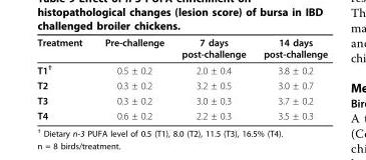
<table><thead><tr><td>Treatment</td><td>Pre-challenge</td><td>7 days post-challenge</td><td>14 days post-challenge</td></tr></thead><tbody><tr><td>T1<sup>†</sup></td><td>0.5 ± 0.2</td><td>2.0 ± 0.4</td><td>3.8 ± 0.2</td></tr><tr><td>T2</td><td>0.3 ± 0.2</td><td>3.2 ± 0.5</td><td>3.0 ± 0.7</td></tr><tr><td>T3</td><td>0.3 ± 0.2</td><td>3.0 ± 0.3</td><td>3.7 ± 0.2</td></tr><tr><td>T4</td><td>0.6 ± 0.2</td><td>2.2 ± 0.3</td><td>3.5 ± 0.3</td></tr></tbody></table>